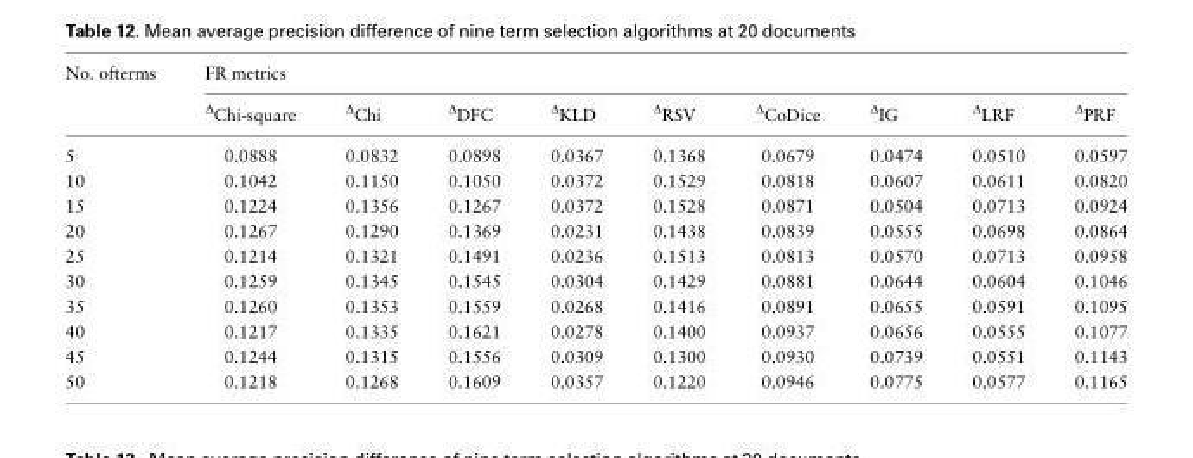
<table><thead><tr><td rowspan="2">No. ofterms</td><td colspan="9">FR metrics</td></tr><tr><td><sup>Δ</sup>Chi-square</td><td><sup>Δ</sup>Chi</td><td><sup>Δ</sup>DFC</td><td><sup>Δ</sup>KLD</td><td><sup>Δ</sup>RSV</td><td><sup>Δ</sup>CoDice</td><td><sup>Δ</sup>IG</td><td><sup>Δ</sup>LRF</td><td><sup>Δ</sup>PRF</td></tr></thead><tbody><tr><td>5</td><td>0.0888</td><td>0.0832</td><td>0.0898</td><td>0.0367</td><td>0.1368</td><td>0.0679</td><td>0.0474</td><td>0.0510</td><td>0.0597</td></tr><tr><td>10</td><td>0.1042</td><td>0.1150</td><td>0.1050</td><td>0.0372</td><td>0.1529</td><td>0.0818</td><td>0.0607</td><td>0.0611</td><td>0.0820</td></tr><tr><td>15</td><td>0.1224</td><td>0.1356</td><td>0.1267</td><td>0.0372</td><td>0.1528</td><td>0.0871</td><td>0.0504</td><td>0.0713</td><td>0.0924</td></tr><tr><td>20</td><td>0.1267</td><td>0.1290</td><td>0.1369</td><td>0.0231</td><td>0.1438</td><td>0.0839</td><td>0.0555</td><td>0.0698</td><td>0.0864</td></tr><tr><td>25</td><td>0.1214</td><td>0.1321</td><td>0.1491</td><td>0.0236</td><td>0.1513</td><td>0.0813</td><td>0.0570</td><td>0.0713</td><td>0.0958</td></tr><tr><td>30</td><td>0.1259</td><td>0.1345</td><td>0.1545</td><td>0.0304</td><td>0.1429</td><td>0.0881</td><td>0.0644</td><td>0.0604</td><td>0.1046</td></tr><tr><td>35</td><td>0.1260</td><td>0.1353</td><td>0.1559</td><td>0.0268</td><td>0.1416</td><td>0.0891</td><td>0.0655</td><td>0.0591</td><td>0.1095</td></tr><tr><td>40</td><td>0.1217</td><td>0.1335</td><td>0.1621</td><td>0.0278</td><td>0.1400</td><td>0.0937</td><td>0.0656</td><td>0.0555</td><td>0.1077</td></tr><tr><td>45</td><td>0.1244</td><td>0.1315</td><td>0.1556</td><td>0.0309</td><td>0.1300</td><td>0.0930</td><td>0.0739</td><td>0.0551</td><td>0.1143</td></tr><tr><td>50</td><td>0.1218</td><td>0.1268</td><td>0.1609</td><td>0.0357</td><td>0.1220</td><td>0.0946</td><td>0.0775</td><td>0.0577</td><td>0.1165</td></tr></tbody></table>